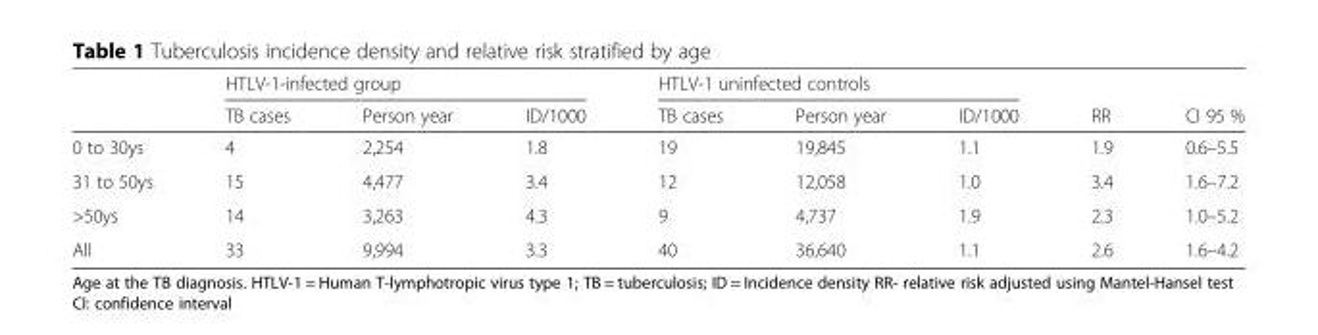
<table><thead><tr><td rowspan="2"></td><td colspan="3">HTLV-1-infected group</td><td colspan="3">HTLV-1 uninfected controls</td><td rowspan="2">RR</td><td rowspan="2">CI 95 %</td></tr><tr><td>TB cases</td><td>Person year</td><td>ID/1000</td><td>TB cases</td><td>Person year</td><td>ID/1000</td></tr></thead><tbody><tr><td>0 to 30ys</td><td>4</td><td>2,254</td><td>1.8</td><td>19</td><td>19,845</td><td>1.1</td><td>1.9</td><td>0.6–5.5</td></tr><tr><td>31 to 50ys</td><td>15</td><td>4,477</td><td>3.4</td><td>12</td><td>12,058</td><td>1.0</td><td>3.4</td><td>1.6–7.2</td></tr><tr><td>&gt;50ys</td><td>14</td><td>3,263</td><td>4.3</td><td>9</td><td>4,737</td><td>1.9</td><td>2.3</td><td>1.0–5.2</td></tr><tr><td>All</td><td>33</td><td>9,994</td><td>3.3</td><td>40</td><td>36,640</td><td>1.1</td><td>2.6</td><td>1.6–4.2</td></tr></tbody></table>